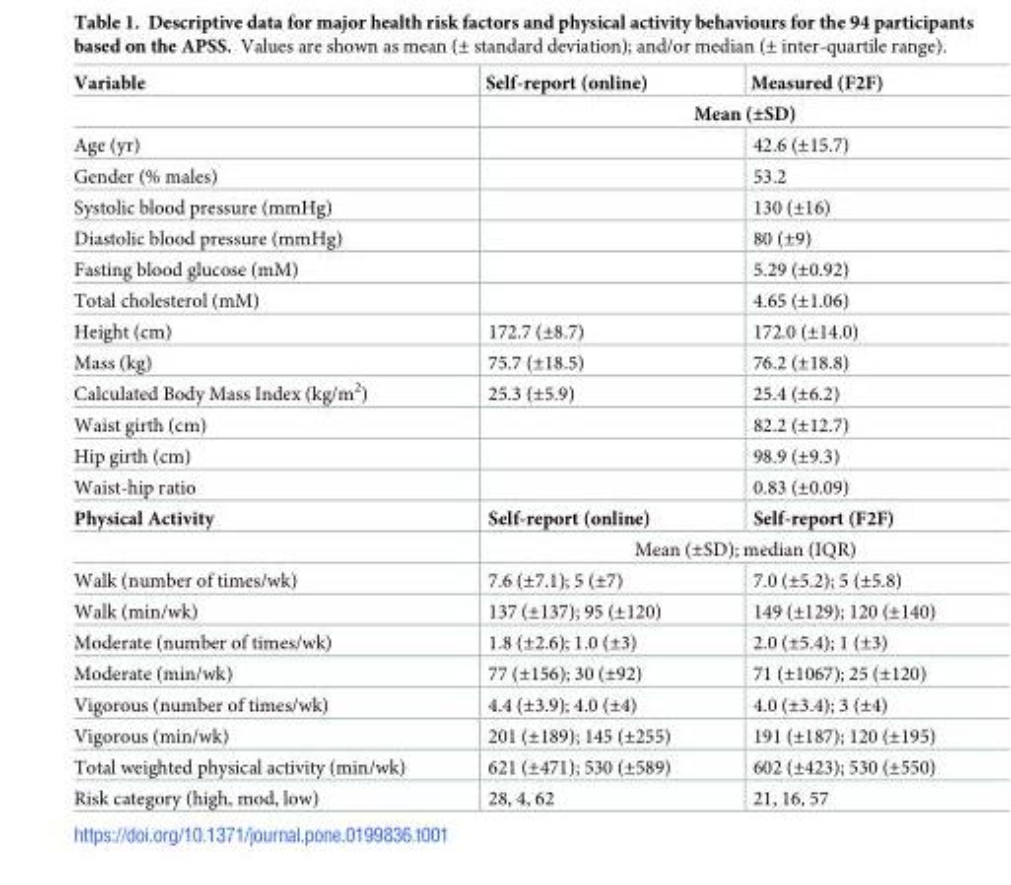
<table><thead><tr><td rowspan="2">Variable</td><td>Self-report (online)</td><td>Measured (F2F)</td></tr><tr><td colspan="2">Mean (±SD)</td></tr></thead><tbody><tr><td>Age (yr)</td><td></td><td>42.6 (±15.7)</td></tr><tr><td>Gender (% males)</td><td></td><td>53.2</td></tr><tr><td>Systolic blood pressure (mmHg)</td><td></td><td>130 (±16)</td></tr><tr><td>Diastolic blood pressure (mmHg)</td><td></td><td>80 (±9)</td></tr><tr><td>Fasting blood glucose (mM)</td><td></td><td>5.29 (±0.92)</td></tr><tr><td>Total cholesterol (mM)</td><td></td><td>4.65 (±1.06)</td></tr><tr><td>Height (cm)</td><td>172.7 (±8.7)</td><td>172.0 (±14.0)</td></tr><tr><td>Mass (kg)</td><td>75.7 (±18.5)</td><td>76.2 (±18.8)</td></tr><tr><td>Calculated Body Mass Index (kg/m<sup>2</sup>)</td><td>25.3 (±5.9)</td><td>25.4 (±6.2)</td></tr><tr><td>Waist girth (cm)</td><td></td><td>82.2 (±12.7)</td></tr><tr><td>Hip girth (cm)</td><td></td><td>98.9 (±9.3)</td></tr><tr><td>Waist-hip ratio</td><td></td><td>0.83 (±0.09)</td></tr><tr><td rowspan="2">Physical Activity</td><td>Self-report (online)</td><td>Self-report (F2F)</td></tr><tr><td colspan="2">Mean (±SD); median (IQR)</td></tr><tr><td>Walk (number of times/wk)</td><td>7.6 (±7.1); 5 (±7)</td><td>7.0 (±5.2); 5 (±5.8)</td></tr><tr><td>Walk (min/wk)</td><td>137 (±137); 95 (±120)</td><td>149 (±129); 120 (±140)</td></tr><tr><td>Moderate (number of times/wk)</td><td>1.8 (±2.6); 1.0 (±3)</td><td>2.0 (±5.4); 1 (±3)</td></tr><tr><td>Moderate (min/wk)</td><td>77 (±156); 30 (±92)</td><td>71 (±1067); 25 (±120)</td></tr><tr><td>Vigorous (number of times/wk)</td><td>4.4 (±3.9); 4.0 (±4)</td><td>4.0 (±3.4); 3 (±4)</td></tr><tr><td>Vigorous (min/wk)</td><td>201 (±189); 145 (±255)</td><td>191 (±187); 120 (±195)</td></tr><tr><td>Total weighted physical activity (min/wk)</td><td>621 (±471); 530 (±589)</td><td>602 (±423); 530 (±550)</td></tr><tr><td>Risk category (high, mod, low)</td><td>28, 4, 62</td><td>21, 16, 57</td></tr></tbody></table>